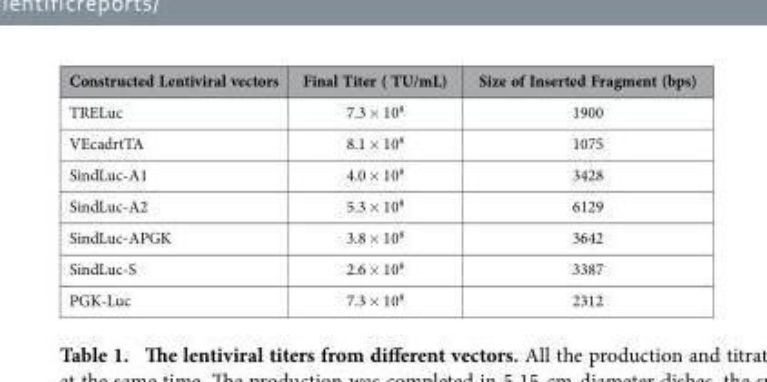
<table><thead><tr><td>Constructed Lentiviral vectors</td><td>Final Titer ( TU/mL)</td><td>Size of Inserted Fragment (bps)</td></tr></thead><tbody><tr><td>TRELuc</td><td>7.3 × 10<sup>8</sup></td><td>1900</td></tr><tr><td>VEcadrtTA</td><td>8.1 × 10<sup>8</sup></td><td>1075</td></tr><tr><td>SindLuc-A1</td><td>4.0 × 10<sup>8</sup></td><td>3428</td></tr><tr><td>SindLuc-A2</td><td>5.3 × 10<sup>8</sup></td><td>6129</td></tr><tr><td>SindLuc-APGK</td><td>3.8 × 10<sup>8</sup></td><td>3642</td></tr><tr><td>SindLuc-S</td><td>2.6 × 10<sup>8</sup></td><td>3387</td></tr><tr><td>PGK-Luc</td><td>7.3 × 10<sup>8</sup></td><td>2312</td></tr></tbody></table>